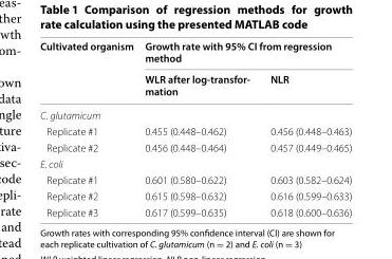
<table><thead><tr><td rowspan="2">Cultivated organism</td><td colspan="2">Growth rate with 95% CI from regression method</td></tr><tr><td>WLR after log‑transfor‑ mation</td><td>NLR</td></tr></thead><tbody><tr><td colspan="3">C. glutamicum</td></tr><tr><td>Replicate #1</td><td>0.455 (0.448–0.462)</td><td>0.456 (0.448–0.463)</td></tr><tr><td>Replicate #2</td><td>0.456 (0.448–0.464)</td><td>0.457 (0.449–0.465)</td></tr><tr><td colspan="3">E. coli</td></tr><tr><td>Replicate #1</td><td>0.601 (0.580–0.622)</td><td>0.603 (0.582–0.624)</td></tr><tr><td>Replicate #2</td><td>0.615 (0.598–0.632)</td><td>0.616 (0.599–0.633)</td></tr><tr><td>Replicate #3</td><td>0.617 (0.599–0.635)</td><td>0.618 (0.600–0.636)</td></tr></tbody></table>